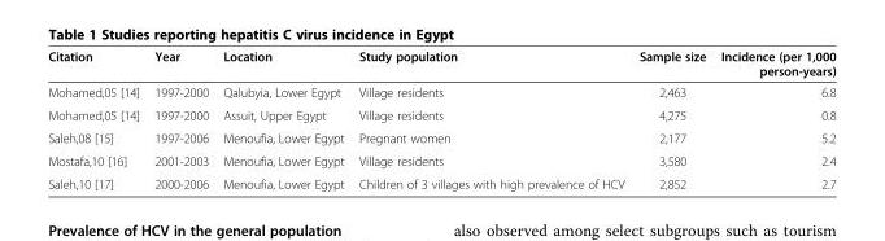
<table><thead><tr><td>Citation</td><td>Year</td><td>Location</td><td>Study population</td><td>Sample size</td><td>Incidence (per 1,000 person-years)</td></tr></thead><tbody><tr><td>Mohamed,05 [14]</td><td>1997-2000</td><td>Qalubyia, Lower Egypt</td><td>Village residents</td><td>2,463</td><td>6.8</td></tr><tr><td>Mohamed,05 [14]</td><td>1997-2000</td><td>Assuit, Upper Egypt</td><td>Village residents</td><td>4,275</td><td>0.8</td></tr><tr><td>Saleh,08 [15]</td><td>1997-2006</td><td>Menoufia, Lower Egypt</td><td>Pregnant women</td><td>2,177</td><td>5.2</td></tr><tr><td>Mostafa,10 [16]</td><td>2001-2003</td><td>Menoufia, Lower Egypt</td><td>Village residents</td><td>3,580</td><td>2.4</td></tr><tr><td>Saleh,10 [17]</td><td>2000-2006</td><td>Menoufia, Lower Egypt</td><td>Children of 3 villages with high prevalence of HCV</td><td>2,852</td><td>2.7</td></tr></tbody></table>